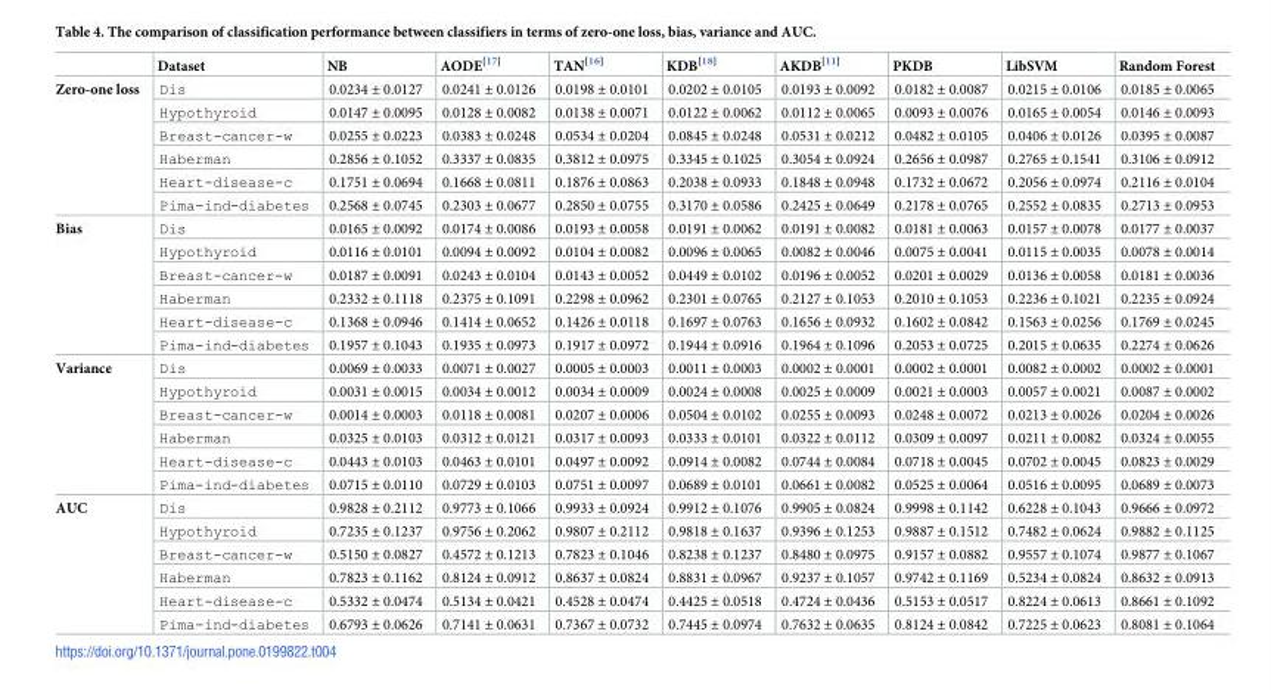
<table><thead><tr><td></td><td>Dataset</td><td>NB</td><td>AODE<sup>[17]</sup></td><td>TAN<sup>[16]</sup></td><td>KDB<sup>[18]</sup></td><td>AKDB<sup>[11]</sup></td><td>PKDB</td><td>LibSVM</td><td>Random Forest</td></tr></thead><tbody><tr><td rowspan="6">Zero-one loss</td><td>Dis</td><td>0.0234 ± 0.0127</td><td>0.0241 ± 0.0126</td><td>0.0198 ± 0.0101</td><td>0.0202 ± 0.0105</td><td>0.0193 ± 0.0092</td><td>0.0182 ± 0.0087</td><td>0.0215 ± 0.0106</td><td>0.0185 ± 0.0065</td></tr><tr><td>Hypothyroid</td><td>0.0147 ± 0.0095</td><td>0.0128 ± 0.0082</td><td>0.0138 ± 0.0071</td><td>0.0122 ± 0.0062</td><td>0.0112 ± 0.0065</td><td>0.0093 ± 0.0076</td><td>0.0165 ± 0.0054</td><td>0.0146 ± 0.0093</td></tr><tr><td>Breast-cancer-w</td><td>0.0255 ± 0.0223</td><td>0.0383 ± 0.0248</td><td>0.0534 ± 0.0204</td><td>0.0845 ± 0.0248</td><td>0.0531 ± 0.0212</td><td>0.0482 ± 0.0105</td><td>0.0406 ± 0.0126</td><td>0.0395 ± 0.0087</td></tr><tr><td>Haberman</td><td>0.2856 ± 0.1052</td><td>0.3337 ± 0.0835</td><td>0.3812 ± 0.0975</td><td>0.3345 ± 0.1025</td><td>0.3054 ± 0.0924</td><td>0.2656 ± 0.0987</td><td>0.2765 ± 0.1541</td><td>0.3106 ± 0.0912</td></tr><tr><td>Heart-disease-c</td><td>0.1751 ± 0.0694</td><td>0.1668 ± 0.0811</td><td>0.1876 ± 0.0863</td><td>0.2038 ± 0.0933</td><td>0.1848 ± 0.0948</td><td>0.1732 ± 0.0672</td><td>0.2056 ± 0.0974</td><td>0.2116 ± 0.0104</td></tr><tr><td>Pima-ind-diabetes</td><td>0.2568 ± 0.0745</td><td>0.2303 ± 0.0677</td><td>0.2850 ± 0.0755</td><td>0.3170 ± 0.0586</td><td>0.2425 ± 0.0649</td><td>0.2178 ± 0.0765</td><td>0.2552 ± 0.0835</td><td>0.2713 ± 0.0953</td></tr><tr><td rowspan="6">Bias</td><td>Dis</td><td>0.0165 ± 0.0092</td><td>0.0174 ± 0.0086</td><td>0.0193 ± 0.0058</td><td>0.0191 ± 0.0062</td><td>0.0191 ± 0.0082</td><td>0.0181 ± 0.0063</td><td>0.0157 ± 0.0078</td><td>0.0177 ± 0.0037</td></tr><tr><td>Hypothyroid</td><td>0.0116 ± 0.0101</td><td>0.0094 ± 0.0092</td><td>0.0104 ± 0.0082</td><td>0.0096 ± 0.0065</td><td>0.0082 ± 0.0046</td><td>0.0075 ± 0.0041</td><td>0.0115 ± 0.0035</td><td>0.0078 ± 0.0014</td></tr><tr><td>Breast-cancer-w</td><td>0.0187 ± 0.0091</td><td>0.0243 ± 0.0104</td><td>0.0143 ± 0.0052</td><td>0.0449 ± 0.0102</td><td>0.0196 ± 0.0052</td><td>0.0201 ± 0.0029</td><td>0.0136 ± 0.0058</td><td>0.0181 ± 0.0036</td></tr><tr><td>Haberman</td><td>0.2332 ± 0.1118</td><td>0.2375 ± 0.1091</td><td>0.2298 ± 0.0962</td><td>0.2301 ± 0.0765</td><td>0.2127 ± 0.1053</td><td>0.2010 ± 0.1053</td><td>0.2236 ± 0.1021</td><td>0.2235 ± 0.0924</td></tr><tr><td>Heart-disease-c</td><td>0.1368 ± 0.0946</td><td>0.1414 ± 0.0652</td><td>0.1426 ± 0.0118</td><td>0.1697 ± 0.0763</td><td>0.1656 ± 0.0932</td><td>0.1602 ± 0.0842</td><td>0.1563 ± 0.0256</td><td>0.1769 ± 0.0245</td></tr><tr><td>Pima-ind-diabetes</td><td>0.1957 ± 0.1043</td><td>0.1935 ± 0.0973</td><td>0.1917 ± 0.0972</td><td>0.1944 ± 0.0916</td><td>0.1964 ± 0.1096</td><td>0.2053 ± 0.0725</td><td>0.2015 ± 0.0635</td><td>0.2274 ± 0.0626</td></tr><tr><td rowspan="6">Variance</td><td>Dis</td><td>0.0069 ± 0.0033</td><td>0.0071 ± 0.0027</td><td>0.0005 ± 0.0003</td><td>0.0011 ± 0.0003</td><td>0.0002 ± 0.0001</td><td>0.0002 ± 0.0001</td><td>0.0082 ± 0.0002</td><td>0.0002 ± 0.0001</td></tr><tr><td>Hypothyroid</td><td>0.0031 ± 0.0015</td><td>0.0034 ± 0.0012</td><td>0.0034 ± 0.0009</td><td>0.0024 ± 0.0008</td><td>0.0025 ± 0.0009</td><td>0.0021 ± 0.0003</td><td>0.0057 ± 0.0021</td><td>0.0087 ± 0.0002</td></tr><tr><td>Breast-cancer-w</td><td>0.0014 ± 0.0003</td><td>0.0118 ± 0.0081</td><td>0.0207 ± 0.0006</td><td>0.0504 ± 0.0102</td><td>0.0255 ± 0.0093</td><td>0.0248 ± 0.0072</td><td>0.0213 ± 0.0026</td><td>0.0204 ± 0.0026</td></tr><tr><td>Haberman</td><td>0.0325 ± 0.0103</td><td>0.0312 ± 0.0121</td><td>0.0317 ± 0.0093</td><td>0.0333 ± 0.0101</td><td>0.0322 ± 0.0112</td><td>0.0309 ± 0.0097</td><td>0.0211 ± 0.0082</td><td>0.0324 ± 0.0055</td></tr><tr><td>Heart-disease-c</td><td>0.0443 ± 0.0103</td><td>0.0463 ± 0.0101</td><td>0.0497 ± 0.0092</td><td>0.0914 ± 0.0082</td><td>0.0744 ± 0.0084</td><td>0.0718 ± 0.0045</td><td>0.0702 ± 0.0045</td><td>0.0823 ± 0.0029</td></tr><tr><td>Pima-ind-diabetes</td><td>0.0715 ± 0.0110</td><td>0.0729 ± 0.0103</td><td>0.0751 ± 0.0097</td><td>0.0689 ± 0.0101</td><td>0.0661 ± 0.0082</td><td>0.0525 ± 0.0064</td><td>0.0516 ± 0.0095</td><td>0.0689 ± 0.0073</td></tr><tr><td rowspan="6">AUC</td><td>Dis</td><td>0.9828 ± 0.2112</td><td>0.9773 ± 0.1066</td><td>0.9933 ± 0.0924</td><td>0.9912 ± 0.1076</td><td>0.9905 ± 0.0824</td><td>0.9998 ± 0.1142</td><td>0.6228 ± 0.1043</td><td>0.9666 ± 0.0972</td></tr><tr><td>Hypothyroid</td><td>0.7235 ± 0.1237</td><td>0.9756 ± 0.2062</td><td>0.9807 ± 0.2112</td><td>0.9818 ± 0.1637</td><td>0.9396 ± 0.1253</td><td>0.9887 ± 0.1512</td><td>0.7482 ± 0.0624</td><td>0.9882 ± 0.1125</td></tr><tr><td>Breast-cancer-w</td><td>0.5150 ± 0.0827</td><td>0.4572 ± 0.1213</td><td>0.7823 ± 0.1046</td><td>0.8238 ± 0.1237</td><td>0.8480 ± 0.0975</td><td>0.9157 ± 0.0882</td><td>0.9557 ± 0.1074</td><td>0.9877 ± 0.1067</td></tr><tr><td>Haberman</td><td>0.7823 ± 0.1162</td><td>0.8124 ± 0.0912</td><td>0.8637 ± 0.0824</td><td>0.8831 ± 0.0967</td><td>0.9237 ± 0.1057</td><td>0.9742 ± 0.1169</td><td>0.5234 ± 0.0824</td><td>0.8632 ± 0.0913</td></tr><tr><td>Heart-disease-c</td><td>0.5332 ± 0.0474</td><td>0.5134 ± 0.0421</td><td>0.4528 ± 0.0474</td><td>0.4425 ± 0.0518</td><td>0.4724 ± 0.0436</td><td>0.5153 ± 0.0517</td><td>0.8224 ± 0.0613</td><td>0.8661 ± 0.1092</td></tr><tr><td>Pima-ind-diabetes</td><td>0.6793 ± 0.0626</td><td>0.7141 ± 0.0631</td><td>0.7367 ± 0.0732</td><td>0.7445 ± 0.0974</td><td>0.7632 ± 0.0635</td><td>0.8124 ± 0.0842</td><td>0.7225 ± 0.0623</td><td>0.8081 ± 0.1064</td></tr></tbody></table>